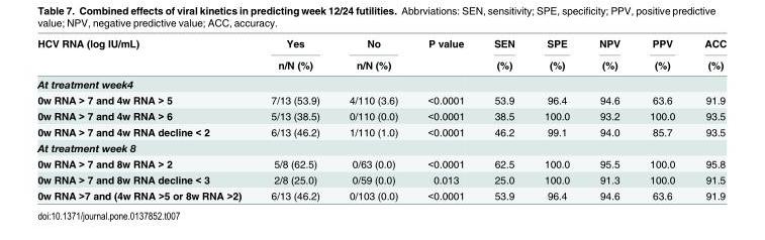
<table><thead><tr><td rowspan="2">HCV RNA (log IU/mL)</td><td rowspan="2">Yes n/N (%)</td><td rowspan="2">No n/N (%)</td><td rowspan="2">P value</td><td rowspan="2">SEN (%)</td><td rowspan="2">SPE (%)</td><td rowspan="2">NPV (%)</td><td rowspan="2">PPV (%)</td><td rowspan="2">ACC (%)</td></tr><tr></tr></thead><tbody><tr><td colspan="9">At treatment week4</td></tr><tr><td>0w RNA &gt; 7 and 4w RNA &gt; 5</td><td>7/13 (53.9)</td><td>4/110 (3.6)</td><td>&lt;0.0001</td><td>53.9</td><td>96.4</td><td>94.6</td><td>63.6</td><td>91.9</td></tr><tr><td>0w RNA &gt; 7 and 4w RNA &gt; 6</td><td>5/13 (38.5)</td><td>0/110 (0.0)</td><td>&lt;0.0001</td><td>38.5</td><td>100.0</td><td>93.2</td><td>100.0</td><td>93.5</td></tr><tr><td>0w RNA &gt; 7 and 4w RNA decline &lt; 2</td><td>6/13 (46.2)</td><td>1/110 (1.0)</td><td>&lt;0.0001</td><td>46.2</td><td>99.1</td><td>94.0</td><td>85.7</td><td>93.5</td></tr><tr><td colspan="9">At treatment week 8</td></tr><tr><td>0w RNA &gt; 7 and 8w RNA &gt; 2</td><td>5/8 (62.5)</td><td>0/63 (0.0)</td><td>&lt;0.0001</td><td>62.5</td><td>100.0</td><td>95.5</td><td>100.0</td><td>95.8</td></tr><tr><td>0w RNA &gt; 7 and 8w RNA decline &lt; 3</td><td>2/8 (25.0)</td><td>0/59 (0.0)</td><td>0.013</td><td>25.0</td><td>100.0</td><td>91.3</td><td>100.0</td><td>91.5</td></tr><tr><td>0w RNA &gt;7 and (4w RNA &gt;5 or 8w RNA &gt;2)</td><td>6/13 (46.2)</td><td>0/103 (0.0)</td><td>&lt;0.0001</td><td>53.9</td><td>96.4</td><td>94.6</td><td>63.6</td><td>91.9</td></tr></tbody></table>